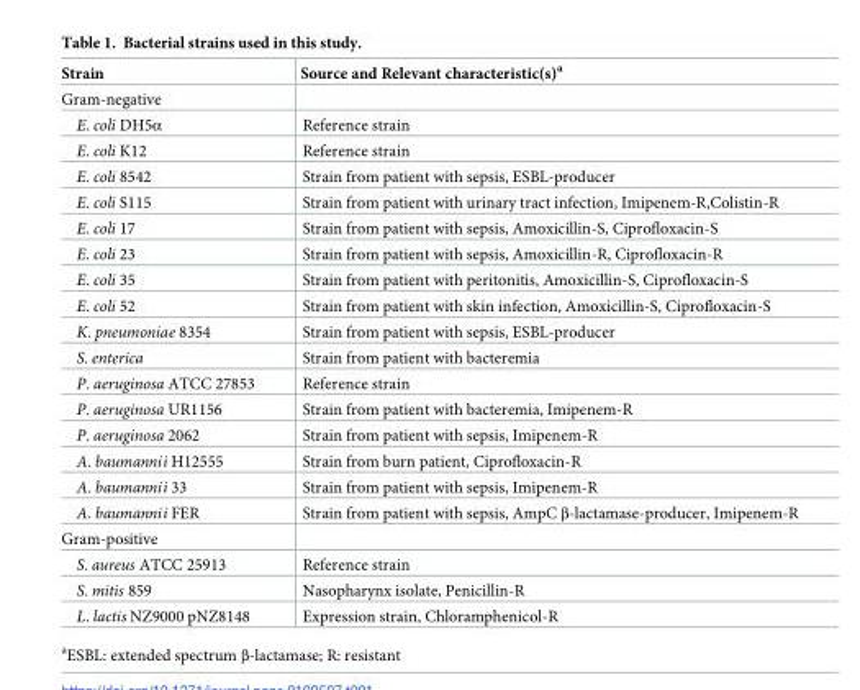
<table><thead><tr><td>Strain</td><td>Source and Relevant characteristic(s)<sup>a</sup></td></tr></thead><tbody><tr><td colspan="2">Gram-negative</td></tr><tr><td>E. coli DH5α</td><td>Reference strain</td></tr><tr><td>E. coli K12</td><td>Reference strain</td></tr><tr><td>E. coli 8542</td><td>Strain from patient with sepsis, ESBL-producer</td></tr><tr><td>E. coli S115</td><td>Strain from patient with urinary tract infection, Imipenem-R,Colistin-R</td></tr><tr><td>E. coli 17</td><td>Strain from patient with sepsis, Amoxicillin-S, Ciprofloxacin-S</td></tr><tr><td>E. coli 23</td><td>Strain from patient with sepsis, Amoxicillin-R, Ciprofloxacin-R</td></tr><tr><td>E. coli 35</td><td>Strain from patient with peritonitis, Amoxicillin-S, Ciprofloxacin-S</td></tr><tr><td>E. coli 52</td><td>Strain from patient with skin infection, Amoxicillin-S, Ciprofloxacin-S</td></tr><tr><td>K. pneumoniae 8354</td><td>Strain from patient with sepsis, ESBL-producer</td></tr><tr><td>S. enterica</td><td>Strain from patient with bacteremia</td></tr><tr><td>P. aeruginosa ATCC 27853</td><td>Reference strain</td></tr><tr><td>P. aeruginosa UR1156</td><td>Strain from patient with bacteremia, Imipenem-R</td></tr><tr><td>P. aeruginosa 2062</td><td>Strain from patient with sepsis, Imipenem-R</td></tr><tr><td>A. baumannii H12555</td><td>Strain from burn patient, Ciprofloxacin-R</td></tr><tr><td>A. baumannii 33</td><td>Strain from patient with sepsis, Imipenem-R</td></tr><tr><td>A. baumannii FER</td><td>Strain from patient with sepsis, AmpC β-lactamase-producer, Imipenem-R</td></tr><tr><td colspan="2">Gram-positive</td></tr><tr><td>S. aureus ATCC 25913</td><td>Reference strain</td></tr><tr><td>S. mitis 859</td><td>Nasopharynx isolate, Penicillin-R</td></tr><tr><td>L. lactis NZ9000 pNZ8148</td><td>Expression strain, Chloramphenicol-R</td></tr></tbody></table>